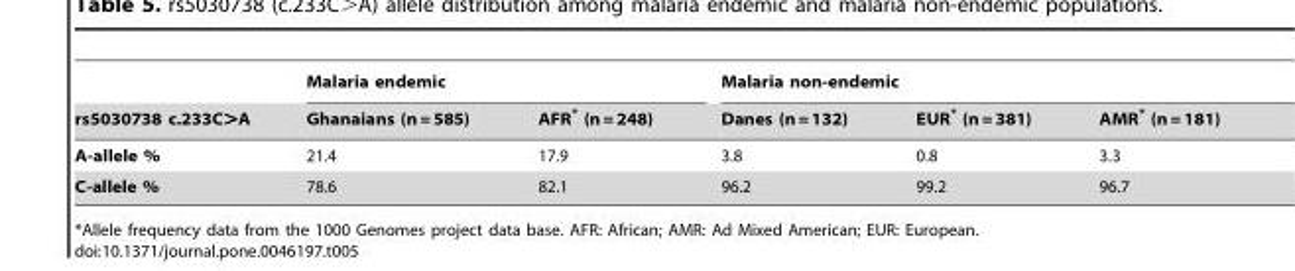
<table><thead><tr><td rowspan="2">rs5030738 c.233C&gt;A</td><td colspan="2">Malaria endemic</td><td colspan="3">Malaria non-endemic</td></tr><tr><td>Ghanaians (n = 585)</td><td>AFR* (n = 248)</td><td>Danes (n = 132)</td><td>EUR* (n = 381)</td><td>AMR* (n = 181)</td></tr></thead><tbody><tr><td>A-allele %</td><td>21.4</td><td>17.9</td><td>3.8</td><td>0.8</td><td>3.3</td></tr><tr><td>C-allele %</td><td>78.6</td><td>82.1</td><td>96.2</td><td>99.2</td><td>96.7</td></tr></tbody></table>